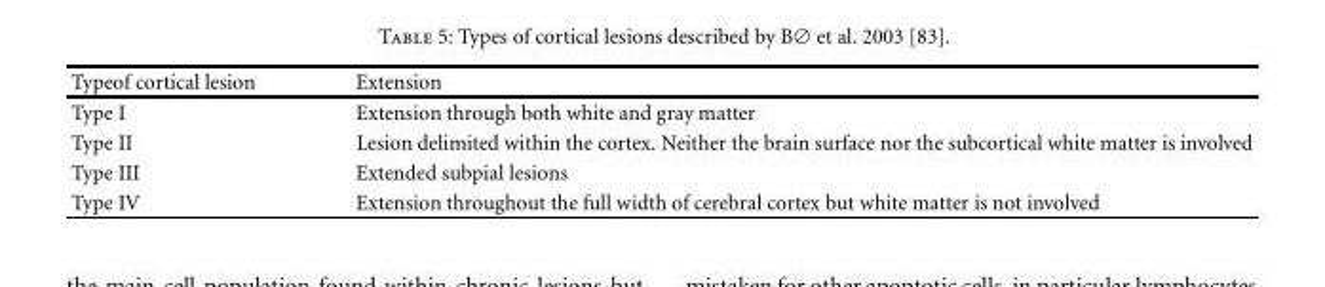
<table><thead><tr><td>Typeof cortical lesion</td><td>Extension</td></tr></thead><tbody><tr><td>Type I</td><td>Extension through both white and gray matter</td></tr><tr><td>Type II</td><td>Lesion delimited within the cortex. Neither the brain surface nor the subcortical white matter is involved</td></tr><tr><td>Type III</td><td>Extended subpial lesions</td></tr><tr><td>Type IV</td><td>Extension throughout the full width of cerebral cortex but white matter is not involved</td></tr></tbody></table>